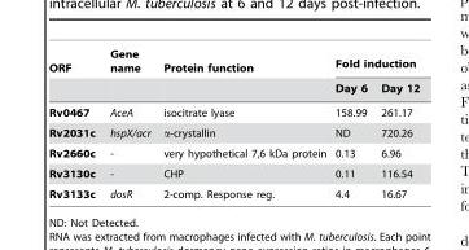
<table><thead><tr><td rowspan="2">ORF</td><td rowspan="2">Gene name</td><td rowspan="2">Protein function</td><td colspan="2">Fold induction</td></tr><tr><td>Day 6</td><td>Day 12</td></tr></thead><tbody><tr><td>Rv0467</td><td>AceA</td><td>isocitrate lyase</td><td>158.99</td><td>261.17</td></tr><tr><td>Rv2031c</td><td>hspX/acr</td><td>α-crystallin</td><td>ND</td><td>720.26</td></tr><tr><td>Rv2660c</td><td>-</td><td>very hypothetical 7,6 kDa protein</td><td>0.13</td><td>6.96</td></tr><tr><td>Rv3130c</td><td>-</td><td>CHP</td><td>0.11</td><td>116.54</td></tr><tr><td>Rv3133c</td><td>dosR</td><td>2-comp. Response reg.</td><td>4.4</td><td>16.67</td></tr></tbody></table>